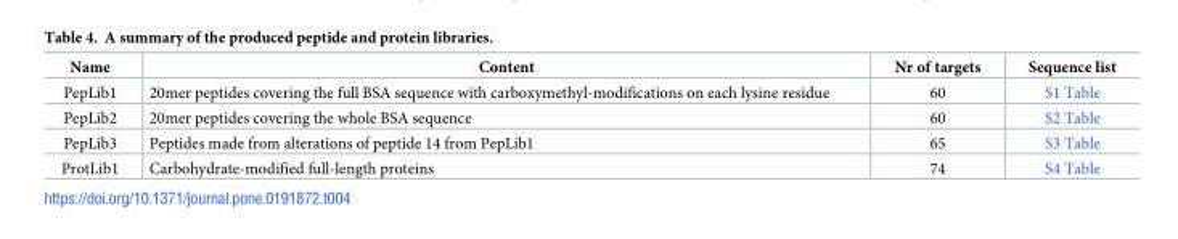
<table><thead><tr><td>Name</td><td>Content</td><td>Nr of targets</td><td>Sequence list</td></tr></thead><tbody><tr><td>PepLib1</td><td>20mer peptides covering the full BSA sequence with carboxymethyl-modifications on each lysine residue</td><td>60</td><td>S1 Table</td></tr><tr><td>PepLib2</td><td>20mer peptides covering the whole BSA sequence</td><td>60</td><td>S2 Table</td></tr><tr><td>PepLib3</td><td>Peptides made from alterations of peptide 14 from PepLib1</td><td>65</td><td>S3 Table</td></tr><tr><td>ProtLib1</td><td>Carbohydrate-modified full-length proteins</td><td>74</td><td>S4 Table</td></tr></tbody></table>